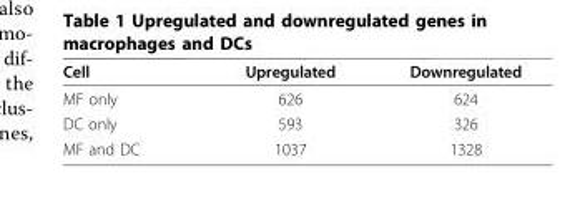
<table><thead><tr><td>Cell</td><td>Upregulated</td><td>Downregulated</td></tr></thead><tbody><tr><td>MF only</td><td>626</td><td>624</td></tr><tr><td>DC only</td><td>593</td><td>326</td></tr><tr><td>MF and DC</td><td>1037</td><td>1328</td></tr></tbody></table>